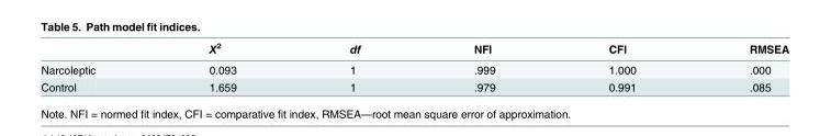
<table><thead><tr><td></td><td>X<sup>2</sup></td><td>df</td><td>NFI</td><td>CFI</td><td>RMSEA</td></tr></thead><tbody><tr><td>Narcoleptic</td><td>0.093</td><td>1</td><td>.999</td><td>1.000</td><td>.000</td></tr><tr><td>Control</td><td>1.659</td><td>1</td><td>.979</td><td>0.991</td><td>.085</td></tr></tbody></table>